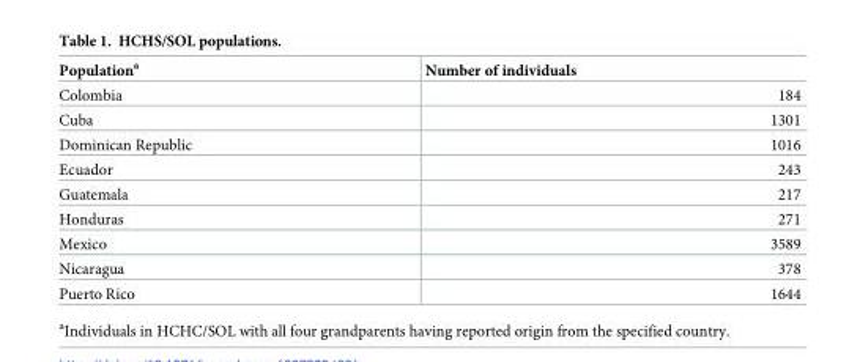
<table><thead><tr><td>Population<sup>a</sup></td><td>Number of individuals</td></tr></thead><tbody><tr><td>Colombia</td><td>184</td></tr><tr><td>Cuba</td><td>1301</td></tr><tr><td>Dominican Republic</td><td>1016</td></tr><tr><td>Ecuador</td><td>243</td></tr><tr><td>Guatemala</td><td>217</td></tr><tr><td>Honduras</td><td>271</td></tr><tr><td>Mexico</td><td>3589</td></tr><tr><td>Nicaragua</td><td>378</td></tr><tr><td>Puerto Rico</td><td>1644</td></tr></tbody></table>